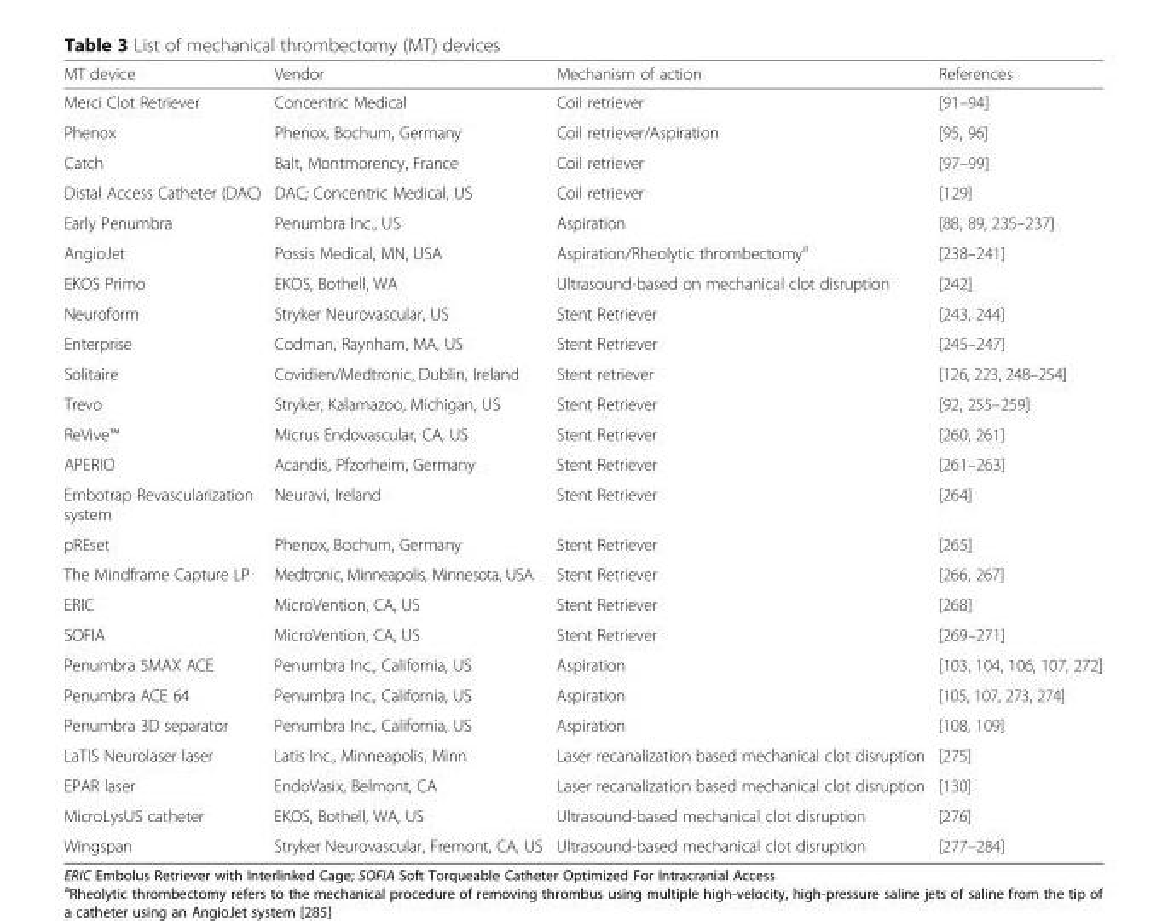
<table><thead><tr><td>MT device</td><td>Vendor</td><td>Mechanism of action</td><td>References</td></tr></thead><tbody><tr><td>Merci Clot Retriever</td><td>Concentric Medical</td><td>Coil retriever</td><td>[91–94]</td></tr><tr><td>Phenox</td><td>Phenox, Bochum, Germany</td><td>Coil retriever/Aspiration</td><td>[95, 96]</td></tr><tr><td>Catch</td><td>Balt, Montmorency, France</td><td>Coil retriever</td><td>[97–99]</td></tr><tr><td>Distal Access Catheter (DAC)</td><td>DAC; Concentric Medical, US</td><td>Coil retriever</td><td>[129]</td></tr><tr><td>Early Penumbra</td><td>Penumbra Inc., US</td><td>Aspiration</td><td>[88, 89, 235–237]</td></tr><tr><td>AngioJet</td><td>Possis Medical, MN, USA</td><td>Aspiration/Rheolytic thrombectomy<sup>a</sup></td><td>[238–241]</td></tr><tr><td>EKOS Primo</td><td>EKOS, Bothell, WA</td><td>Ultrasound-based on mechanical clot disruption</td><td>[242]</td></tr><tr><td>Neuroform</td><td>Stryker Neurovascular, US</td><td>Stent Retriever</td><td>[243, 244]</td></tr><tr><td>Enterprise</td><td>Codman, Raynham, MA, US</td><td>Stent Retriever</td><td>[245–247]</td></tr><tr><td>Solitaire</td><td>Covidien/Medtronic, Dublin, Ireland</td><td>Stent retriever</td><td>[126, 223, 248–254]</td></tr><tr><td>Trevo</td><td>Stryker, Kalamazoo, Michigan, US</td><td>Stent Retriever</td><td>[92, 255–259]</td></tr><tr><td>ReVive™</td><td>Micrus Endovascular, CA, US</td><td>Stent Retriever</td><td>[260, 261]</td></tr><tr><td>APERIO</td><td>Acandis, Pfzorheim, Germany</td><td>Stent Retriever</td><td>[261–263]</td></tr><tr><td>Embotrap Revascularization system</td><td>Neuravi, Ireland</td><td>Stent Retriever</td><td>[264]</td></tr><tr><td>pREset</td><td>Phenox, Bochum, Germany</td><td>Stent Retriever</td><td>[265]</td></tr><tr><td>The Mindframe Capture LP</td><td>Medtronic, Minneapolis, Minnesota, USA</td><td>Stent Retriever</td><td>[266, 267]</td></tr><tr><td>ERIC</td><td>MicroVention, CA, US</td><td>Stent Retriever</td><td>[268]</td></tr><tr><td>SOFIA</td><td>MicroVention, CA, US</td><td>Stent Retriever</td><td>[269–271]</td></tr><tr><td>Penumbra 5MAX ACE</td><td>Penumbra Inc., California, US</td><td>Aspiration</td><td>[103, 104, 106, 107, 272]</td></tr><tr><td>Penumbra ACE 64</td><td>Penumbra Inc., California, US</td><td>Aspiration</td><td>[105, 107, 273, 274]</td></tr><tr><td>Penumbra 3D separator</td><td>Penumbra Inc., California, US</td><td>Aspiration</td><td>[108, 109]</td></tr><tr><td>LaTIS Neurolaser laser</td><td>Latis Inc., Minneapolis, Minn</td><td>Laser recanalization based mechanical clot disruption</td><td>[275]</td></tr><tr><td>EPAR laser</td><td>EndoVasix, Belmont, CA</td><td>Laser recanalization based mechanical clot disruption</td><td>[130]</td></tr><tr><td>MicroLysUS catheter</td><td>EKOS, Bothell, WA, US</td><td>Ultrasound-based mechanical clot disruption</td><td>[276]</td></tr><tr><td>Wingspan</td><td>Stryker Neurovascular, Fremont, CA, US</td><td>Ultrasound-based mechanical clot disruption</td><td>[277–284]</td></tr></tbody></table>